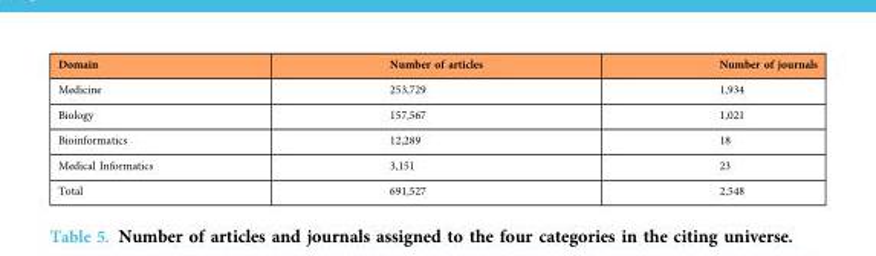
<table><thead><tr><td>Domain</td><td>Number of articles</td><td>Number of journals</td></tr></thead><tbody><tr><td>Medicine</td><td>253,729</td><td>1,934</td></tr><tr><td>Biology</td><td>157,567</td><td>1,021</td></tr><tr><td>Bioinformatics</td><td>12,289</td><td>18</td></tr><tr><td>Medical Informatics</td><td>3,151</td><td>23</td></tr><tr><td>Total</td><td>691,527</td><td>2,548</td></tr></tbody></table>